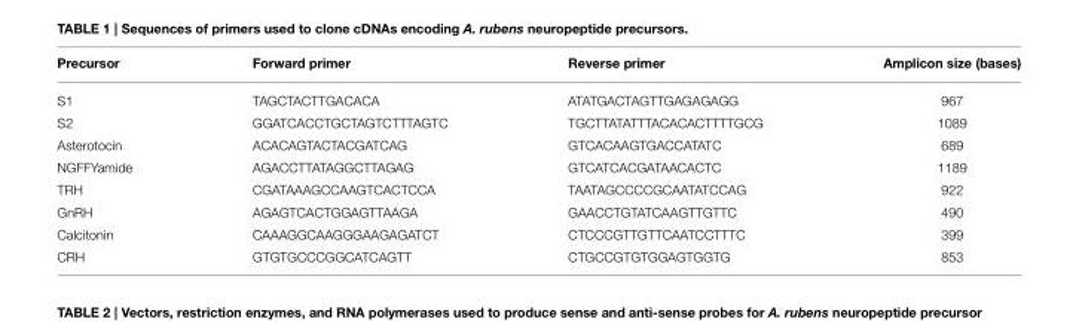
<table><thead><tr><td>Precursor</td><td>Forward primer</td><td>Reverse primer</td><td>Amplicon size (bases)</td></tr></thead><tbody><tr><td>S1</td><td>TAGCTACTTGACACA</td><td>ATATGACTAGTTGAGAGAGG</td><td>967</td></tr><tr><td>S2</td><td>GGATCACCTGCTAGTCTTTAGTC</td><td>TGCTTATATTTACACACTTTTGCG</td><td>1089</td></tr><tr><td>Asterotocin</td><td>ACACAGTACTACGATCAG</td><td>GTCACAAGTGACCATATC</td><td>689</td></tr><tr><td>NGFFYamide</td><td>AGACCTTATAGGCTTAGAG</td><td>GTCATCACGATAACACTC</td><td>1189</td></tr><tr><td>TRH</td><td>CGATAAAGCCAAGTCACTCCA</td><td>TAATAGCCCCGCAATATCCAG</td><td>922</td></tr><tr><td>GnRH</td><td>AGAGTCACTGGAGTTAAGA</td><td>GAACCTGTATCAAGTTGTTC</td><td>490</td></tr><tr><td>Calcitonin</td><td>CAAAGGCAAGGGAAGAGATCT</td><td>CTCCCGTTGTTCAATCCTTTC</td><td>399</td></tr><tr><td>CRH</td><td>GTGTGCCCGGCATCAGTT</td><td>CTGCCGTGTGGAGTGGTG</td><td>853</td></tr></tbody></table>